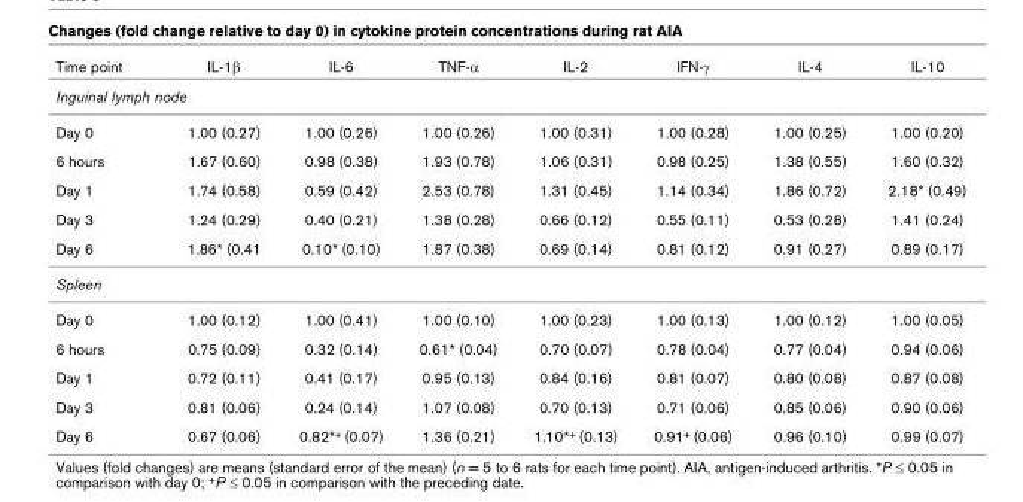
<table><thead><tr><td>Time point</td><td>IL-1β</td><td>IL-6</td><td>TNF-α</td><td>IL-2</td><td>IFN-γ</td><td>IL-4</td><td>IL-10</td></tr></thead><tbody><tr><td colspan="8">Inguinal lymph node</td></tr><tr><td>Day 0</td><td>1.00 (0.27)</td><td>1.00 (0.26)</td><td>1.00 (0.26)</td><td>1.00 (0.31)</td><td>1.00 (0.28)</td><td>1.00 (0.25)</td><td>1.00 (0.20)</td></tr><tr><td>6 hours</td><td>1.67 (0.60)</td><td>0.98 (0.38)</td><td>1.93 (0.78)</td><td>1.06 (0.31)</td><td>0.98 (0.25)</td><td>1.38 (0.55)</td><td>1.60 (0.32)</td></tr><tr><td>Day 1</td><td>1.74 (0.58)</td><td>0.59 (0.42)</td><td>2.53 (0.78)</td><td>1.31 (0.45)</td><td>1.14 (0.34)</td><td>1.86 (0.72)</td><td>2.18* (0.49)</td></tr><tr><td>Day 3</td><td>1.24 (0.29)</td><td>0.40 (0.21)</td><td>1.38 (0.28)</td><td>0.66 (0.12)</td><td>0.55 (0.11)</td><td>0.53 (0.28)</td><td>1.41 (0.24)</td></tr><tr><td>Day 6</td><td>1.86* (0.41</td><td>0.10* (0.10)</td><td>1.87 (0.38)</td><td>0.69 (0.14)</td><td>0.81 (0.12)</td><td>0.91 (0.27)</td><td>0.89 (0.17)</td></tr><tr><td colspan="8">Spleen</td></tr><tr><td>Day 0</td><td>1.00 (0.12)</td><td>1.00 (0.41)</td><td>1.00 (0.10)</td><td>1.00 (0.23)</td><td>1.00 (0.13)</td><td>1.00 (0.12)</td><td>1.00 (0.05)</td></tr><tr><td>6 hours</td><td>0.75 (0.09)</td><td>0.32 (0.14)</td><td>0.61* (0.04)</td><td>0.70 (0.07)</td><td>0.78 (0.04)</td><td>0.77 (0.04)</td><td>0.94 (0.06)</td></tr><tr><td>Day 1</td><td>0.72 (0.11)</td><td>0.41 (0.17)</td><td>0.95 (0.13)</td><td>0.84 (0.16)</td><td>0.81 (0.07)</td><td>0.80 (0.08)</td><td>0.87 (0.08)</td></tr><tr><td>Day 3</td><td>0.81 (0.06)</td><td>0.24 (0.14)</td><td>1.07 (0.08)</td><td>0.70 (0.13)</td><td>0.71 (0.06)</td><td>0.85 (0.06)</td><td>0.90 (0.06)</td></tr><tr><td>Day 6</td><td>0.67 (0.06)</td><td>0.82*+ (0.07)</td><td>1.36 (0.21)</td><td>1.10*+ (0.13)</td><td>0.91+ (0.06)</td><td>0.96 (0.10)</td><td>0.99 (0.07)</td></tr></tbody></table>